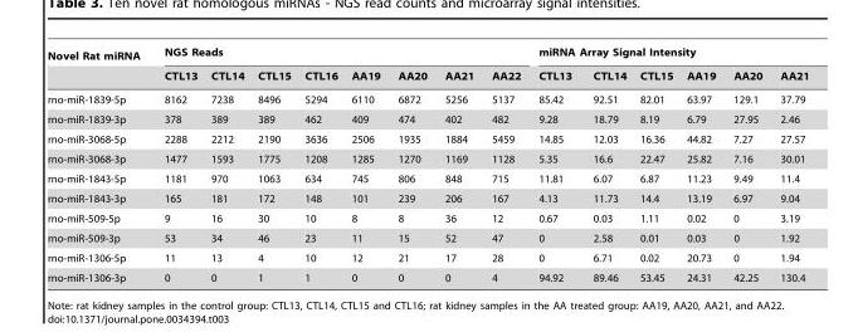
<table><thead><tr><td rowspan="2">Novel Rat miRNA</td><td colspan="8">NGS Reads</td><td colspan="6">miRNA Array Signal Intensity</td></tr><tr><td>CTL13</td><td>CTL14</td><td>CTL15</td><td>CTL16</td><td>AA19</td><td>AA20</td><td>AA21</td><td>AA22</td><td>CTL13</td><td>CTL14</td><td>CTL15</td><td>AA19</td><td>AA20</td><td>AA21</td></tr></thead><tbody><tr><td>rno-miR-1839-5p</td><td>8162</td><td>7238</td><td>8496</td><td>5294</td><td>6110</td><td>6872</td><td>5256</td><td>5137</td><td>85.42</td><td>92.51</td><td>82.01</td><td>63.97</td><td>129.1</td><td>37.79</td></tr><tr><td>rno-miR-1839-3p</td><td>378</td><td>389</td><td>389</td><td>462</td><td>409</td><td>474</td><td>402</td><td>482</td><td>9.28</td><td>18.79</td><td>8.19</td><td>6.79</td><td>27.95</td><td>2.46</td></tr><tr><td>rno-miR-3068-5p</td><td>2288</td><td>2212</td><td>2190</td><td>3636</td><td>2506</td><td>1935</td><td>1884</td><td>5459</td><td>14.85</td><td>12.03</td><td>16.36</td><td>44.82</td><td>7.27</td><td>27.57</td></tr><tr><td>rno-miR-3068-3p</td><td>1477</td><td>1593</td><td>1775</td><td>1208</td><td>1285</td><td>1270</td><td>1169</td><td>1128</td><td>5.35</td><td>16.6</td><td>22.47</td><td>25.82</td><td>7.16</td><td>30.01</td></tr><tr><td>rno-miR-1843-5p</td><td>1181</td><td>970</td><td>1063</td><td>634</td><td>745</td><td>806</td><td>848</td><td>715</td><td>11.81</td><td>6.07</td><td>6.87</td><td>11.23</td><td>9.49</td><td>11.4</td></tr><tr><td>rno-miR-1843-3p</td><td>165</td><td>181</td><td>172</td><td>148</td><td>101</td><td>239</td><td>206</td><td>167</td><td>4.13</td><td>11.73</td><td>14.4</td><td>13.19</td><td>6.97</td><td>9.04</td></tr><tr><td>rno-miR-509-5p</td><td>9</td><td>16</td><td>30</td><td>10</td><td>8</td><td>8</td><td>36</td><td>12</td><td>0.67</td><td>0.03</td><td>1.11</td><td>0.02</td><td>0</td><td>3.19</td></tr><tr><td>rno-miR-509-3p</td><td>53</td><td>34</td><td>46</td><td>23</td><td>11</td><td>15</td><td>52</td><td>47</td><td>0</td><td>2.58</td><td>0.01</td><td>0.03</td><td>0</td><td>1.92</td></tr><tr><td>rno-miR-1306-5p</td><td>11</td><td>13</td><td>4</td><td>10</td><td>12</td><td>21</td><td>17</td><td>28</td><td>0</td><td>6.71</td><td>0.02</td><td>20.73</td><td>0</td><td>1.94</td></tr><tr><td>rno-miR-1306-3p</td><td>0</td><td>0</td><td>1</td><td>1</td><td>0</td><td>0</td><td>0</td><td>4</td><td>94.92</td><td>89.46</td><td>53.45</td><td>24.31</td><td>42.25</td><td>130.4</td></tr></tbody></table>